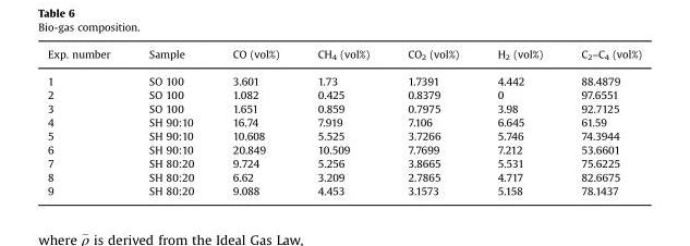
<table><thead><tr><td>Exp. number</td><td>Sample</td><td>CO (vol%)</td><td>CH<sub>4</sub> (vol%)</td><td>CO<sub>2</sub> (vol%)</td><td>H<sub>2</sub> (vol%)</td><td>C<sub>2</sub>–C<sub>4</sub> (vol%)</td></tr></thead><tbody><tr><td>1</td><td>SO 100</td><td>3.601</td><td>1.73</td><td>1.7391</td><td>4.442</td><td>88.4879</td></tr><tr><td>2</td><td>SO 100</td><td>1.082</td><td>0.425</td><td>0.8379</td><td>0</td><td>97.6551</td></tr><tr><td>3</td><td>SO 100</td><td>1.651</td><td>0.859</td><td>0.7975</td><td>3.98</td><td>92.7125</td></tr><tr><td>4</td><td>SH 90:10</td><td>16.74</td><td>7.919</td><td>7.106</td><td>6.645</td><td>61.59</td></tr><tr><td>5</td><td>SH 90:10</td><td>10.608</td><td>5.525</td><td>3.7266</td><td>5.746</td><td>74.3944</td></tr><tr><td>6</td><td>SH 90:10</td><td>20.849</td><td>10.509</td><td>7.7699</td><td>7.212</td><td>53.6601</td></tr><tr><td>7</td><td>SH 80:20</td><td>9.724</td><td>5.256</td><td>3.8665</td><td>5.531</td><td>75.6225</td></tr><tr><td>8</td><td>SH 80:20</td><td>6.62</td><td>3.209</td><td>2.7865</td><td>4.717</td><td>82.6675</td></tr><tr><td>9</td><td>SH 80:20</td><td>9.088</td><td>4.453</td><td>3.1573</td><td>5.158</td><td>78.1437</td></tr></tbody></table>